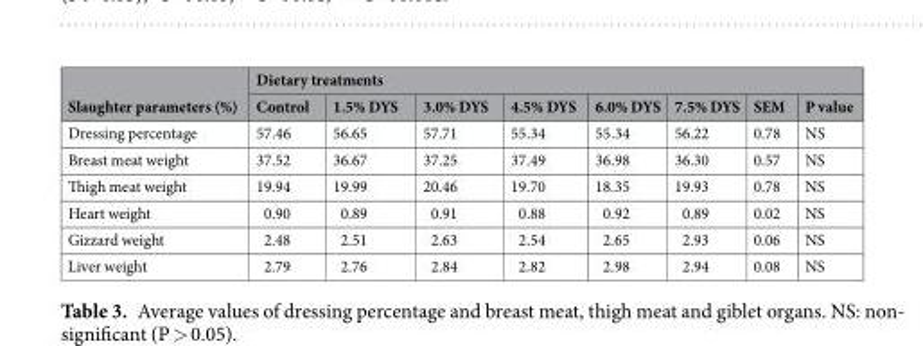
<table><thead><tr><td rowspan="2">Slaughter parameters (%)</td><td colspan="8">Dietary treatments</td></tr><tr><td>Control</td><td>1.5% DYS</td><td>3.0% DYS</td><td>4.5% DYS</td><td>6.0% DYS</td><td>7.5% DYS</td><td>SEM</td><td>P value</td></tr></thead><tbody><tr><td>Dressing percentage</td><td>57.46</td><td>56.65</td><td>57.71</td><td>55.34</td><td>55.34</td><td>56.22</td><td>0.78</td><td>NS</td></tr><tr><td>Breast meat weight</td><td>37.52</td><td>36.67</td><td>37.25</td><td>37.49</td><td>36.98</td><td>36.30</td><td>0.57</td><td>NS</td></tr><tr><td>Thigh meat weight</td><td>19.94</td><td>19.99</td><td>20.46</td><td>19.70</td><td>18.35</td><td>19.93</td><td>0.78</td><td>NS</td></tr><tr><td>Heart weight</td><td>0.90</td><td>0.89</td><td>0.91</td><td>0.88</td><td>0.92</td><td>0.89</td><td>0.02</td><td>NS</td></tr><tr><td>Gizzard weight</td><td>2.48</td><td>2.51</td><td>2.63</td><td>2.54</td><td>2.65</td><td>2.93</td><td>0.06</td><td>NS</td></tr><tr><td>Liver weight</td><td>2.79</td><td>2.76</td><td>2.84</td><td>2.82</td><td>2.98</td><td>2.94</td><td>0.08</td><td>NS</td></tr></tbody></table>